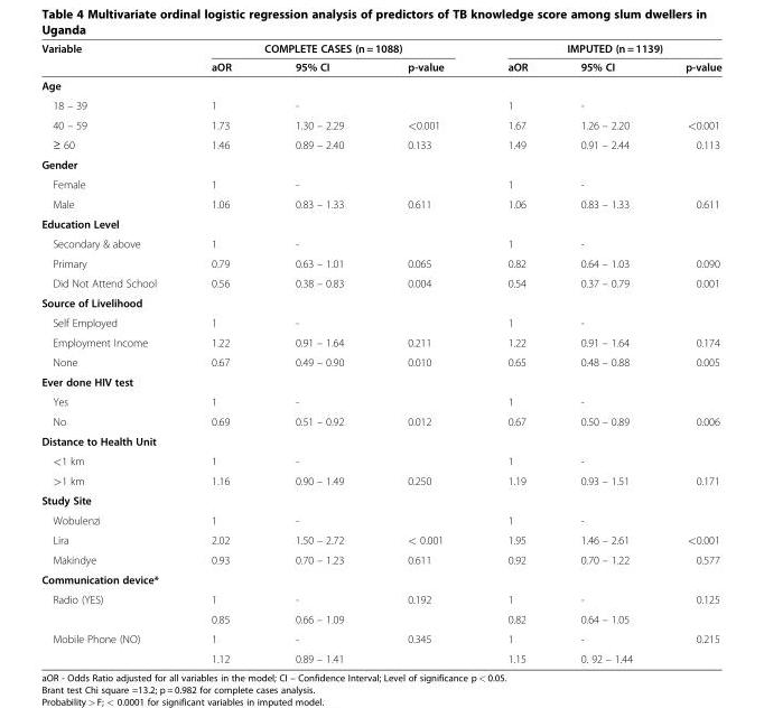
<table><thead><tr><td rowspan="2">Variable</td><td colspan="3">COMPLETE CASES (n = 1088)</td><td colspan="3">IMPUTED (n = 1139)</td></tr><tr><td>aOR</td><td>95% CI</td><td>p-value</td><td>aOR</td><td>95% CI</td><td>p-value</td></tr></thead><tbody><tr><td colspan="7">Age</td></tr><tr><td>18 – 39</td><td>1</td><td>-</td><td></td><td>1</td><td>-</td><td></td></tr><tr><td>40 – 59</td><td>1.73</td><td>1.30 – 2.29</td><td>&lt;0.001</td><td>1.67</td><td>1.26 – 2.20</td><td>&lt;0.001</td></tr><tr><td>≥ 60</td><td>1.46</td><td>0.89 – 2.40</td><td>0.133</td><td>1.49</td><td>0.91 – 2.44</td><td>0.113</td></tr><tr><td colspan="7">Gender</td></tr><tr><td>Female</td><td>1</td><td>-</td><td></td><td>1</td><td>-</td><td></td></tr><tr><td>Male</td><td>1.06</td><td>0.83 – 1.33</td><td>0.611</td><td>1.06</td><td>0.83 – 1.33</td><td>0.611</td></tr><tr><td colspan="7">Education Level</td></tr><tr><td>Secondary &amp; above</td><td>1</td><td>-</td><td></td><td>1</td><td>-</td><td></td></tr><tr><td>Primary</td><td>0.79</td><td>0.63 – 1.01</td><td>0.065</td><td>0.82</td><td>0.64 – 1.03</td><td>0.090</td></tr><tr><td>Did Not Attend School</td><td>0.56</td><td>0.38 – 0.83</td><td>0.004</td><td>0.54</td><td>0.37 – 0.79</td><td>0.001</td></tr><tr><td colspan="7">Source of Livelihood</td></tr><tr><td>Self Employed</td><td>1</td><td>-</td><td></td><td>1</td><td>-</td><td></td></tr><tr><td>Employment Income</td><td>1.22</td><td>0.91 – 1.64</td><td>0.211</td><td>1.22</td><td>0.91 – 1.64</td><td>0.174</td></tr><tr><td>None</td><td>0.67</td><td>0.49 – 0.90</td><td>0.010</td><td>0.65</td><td>0.48 – 0.88</td><td>0.005</td></tr><tr><td colspan="7">Ever done HIV test</td></tr><tr><td>Yes</td><td>1</td><td>-</td><td></td><td>1</td><td>-</td><td></td></tr><tr><td>No</td><td>0.69</td><td>0.51 – 0.92</td><td>0.012</td><td>0.67</td><td>0.50 – 0.89</td><td>0.006</td></tr><tr><td colspan="7">Distance to Health Unit</td></tr><tr><td>&lt;1 km</td><td>1</td><td>-</td><td></td><td>1</td><td>-</td><td></td></tr><tr><td>&gt;1 km</td><td>1.16</td><td>0.90 – 1.49</td><td>0.250</td><td>1.19</td><td>0.93 – 1.51</td><td>0.171</td></tr><tr><td colspan="7">Study Site</td></tr><tr><td>Wobulenzi</td><td>1</td><td>-</td><td></td><td>1</td><td>-</td><td></td></tr><tr><td>Lira</td><td>2.02</td><td>1.50 – 2.72</td><td>&lt; 0.001</td><td>1.95</td><td>1.46 – 2.61</td><td>&lt;0.001</td></tr><tr><td>Makindye</td><td>0.93</td><td>0.70 – 1.23</td><td>0.611</td><td>0.92</td><td>0.70 – 1.22</td><td>0.577</td></tr><tr><td colspan="7">Communication device*</td></tr><tr><td rowspan="2">Radio (YES)</td><td>1</td><td>-</td><td>0.192</td><td>1</td><td>-</td><td>0.125</td></tr><tr><td>0.85</td><td>0.66 – 1.09</td><td></td><td>0.82</td><td>0.64 – 1.05</td><td></td></tr><tr><td rowspan="2">Mobile Phone (NO)</td><td>1</td><td>-</td><td>0.345</td><td>1</td><td>-</td><td>0.215</td></tr><tr><td>1.12</td><td>0.89 – 1.41</td><td></td><td>1.15</td><td>0. 92 – 1.44</td><td></td></tr></tbody></table>